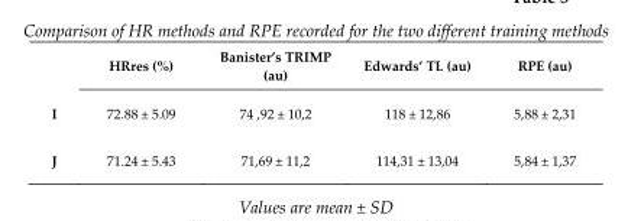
<table><thead><tr><td></td><td>HRres (%)</td><td>Banister’s TRIMP (au)</td><td>Edwards’ TL (au)</td><td>RPE (au)</td></tr></thead><tbody><tr><td>I</td><td>72.88 ± 5.09</td><td>74 ,92 ± 10,2</td><td>118 ± 12,86</td><td>5,88 ± 2,31</td></tr><tr><td>J</td><td>71.24 ± 5.43</td><td>71,69 ± 11,2</td><td>114,31 ± 13,04</td><td>5,84 ± 1,37</td></tr></tbody></table>